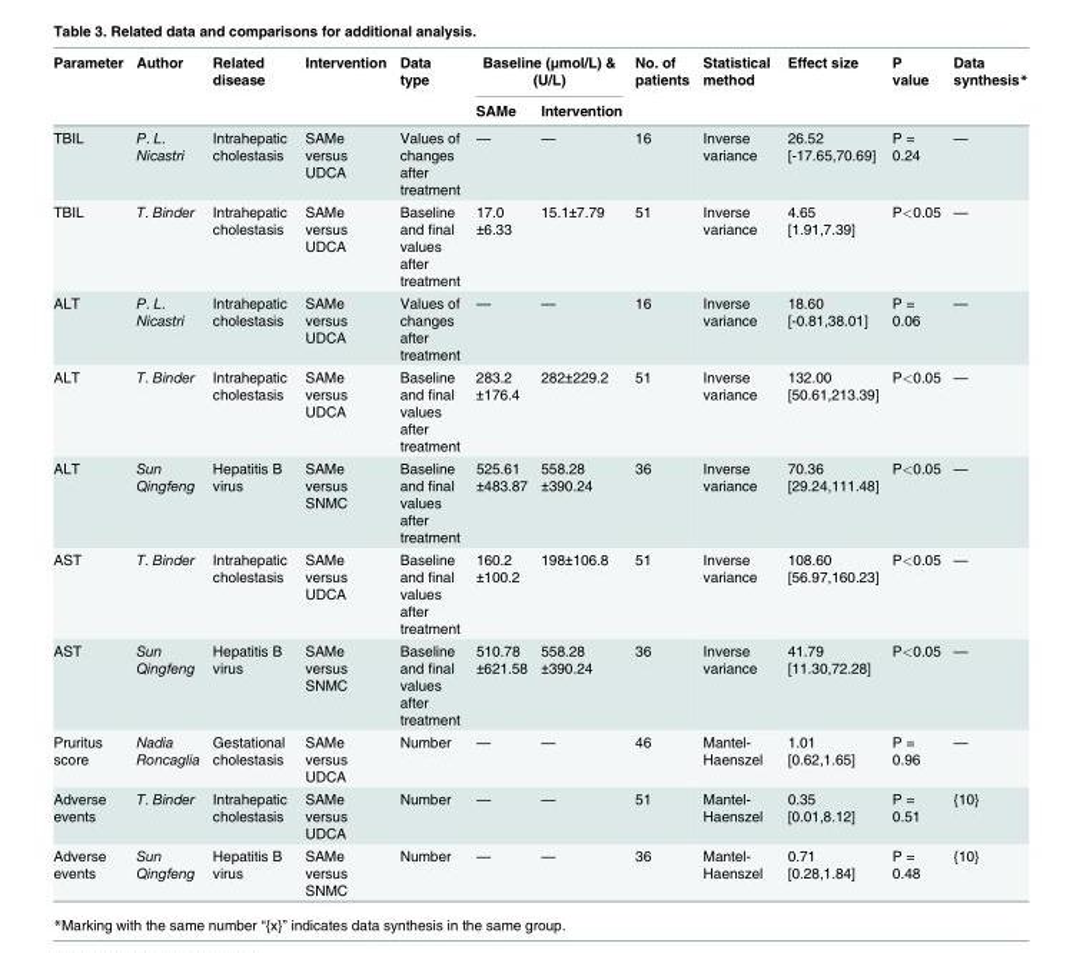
<table><thead><tr><td rowspan="2">Parameter</td><td rowspan="2">Author</td><td rowspan="2">Related disease</td><td rowspan="2">Intervention</td><td rowspan="2">Data type</td><td colspan="2">Baseline (μmol/L) &amp; (U/L)</td><td rowspan="2">No. of patients</td><td rowspan="2">Statistical method</td><td rowspan="2">Effect size</td><td rowspan="2">P value</td><td rowspan="2">Data synthesis*</td></tr><tr><td>SAMe</td><td>Intervention</td></tr></thead><tbody><tr><td>TBIL</td><td>P. L. Nicastri</td><td>Intrahepatic cholestasis</td><td>SAMe versus UDCA</td><td>Values of changes after treatment</td><td>—</td><td>—</td><td>16</td><td>Inverse variance</td><td>26.52 [-17.65,70.69]</td><td>P = 0.24</td><td>—</td></tr><tr><td>TBIL</td><td>T. Binder</td><td>Intrahepatic cholestasis</td><td>SAMe versus UDCA</td><td>Baseline and final values after treatment</td><td>17.0 ±6.33</td><td>15.1±7.79</td><td>51</td><td>Inverse variance</td><td>4.65 [1.91,7.39]</td><td>P&lt;0.05</td><td>—</td></tr><tr><td>ALT</td><td>P. L. Nicastri</td><td>Intrahepatic cholestasis</td><td>SAMe versus UDCA</td><td>Values of changes after treatment</td><td>—</td><td>—</td><td>16</td><td>Inverse variance</td><td>18.60 [-0.81,38.01]</td><td>P = 0.06</td><td>—</td></tr><tr><td>ALT</td><td>T. Binder</td><td>Intrahepatic cholestasis</td><td>SAMe versus UDCA</td><td>Baseline and final values after treatment</td><td>283.2 ±176.4</td><td>282±229.2</td><td>51</td><td>Inverse variance</td><td>132.00 [50.61,213.39]</td><td>P&lt;0.05</td><td>—</td></tr><tr><td>ALT</td><td>Sun Qingfeng</td><td>Hepatitis B virus</td><td>SAMe versus SNMC</td><td>Baseline and final values after treatment</td><td>525.61 ±483.87</td><td>558.28 ±390.24</td><td>36</td><td>Inverse variance</td><td>70.36 [29.24,111.48]</td><td>P&lt;0.05</td><td>—</td></tr><tr><td>AST</td><td>T. Binder</td><td>Intrahepatic cholestasis</td><td>SAMe versus UDCA</td><td>Baseline and final values after treatment</td><td>160.2 ±100.2</td><td>198±106.8</td><td>51</td><td>Inverse variance</td><td>108.60 [56.97,160.23]</td><td>P&lt;0.05</td><td>—</td></tr><tr><td>AST</td><td>Sun Qingfeng</td><td>Hepatitis B virus</td><td>SAMe versus SNMC</td><td>Baseline and final values after treatment</td><td>510.78 ±621.58</td><td>558.28 ±390.24</td><td>36</td><td>Inverse variance</td><td>41.79 [11.30,72.28]</td><td>P&lt;0.05</td><td>—</td></tr><tr><td>Pruritus score</td><td>Nadia Roncaglia</td><td>Gestational cholestasis</td><td>SAMe versus UDCA</td><td>Number</td><td>—</td><td>—</td><td>46</td><td>Mantel- Haenszel</td><td>1.01 [0.62,1.65]</td><td>P = 0.96</td><td>—</td></tr><tr><td>Adverse events</td><td>T. Binder</td><td>Intrahepatic cholestasis</td><td>SAMe versus UDCA</td><td>Number</td><td>—</td><td>—</td><td>51</td><td>Mantel- Haenszel</td><td>0.35 [0.01,8.12]</td><td>P = 0.51</td><td>{10}</td></tr><tr><td>Adverse events</td><td>Sun Qingfeng</td><td>Hepatitis B virus</td><td>SAMe versus SNMC</td><td>Number</td><td>—</td><td>—</td><td>36</td><td>Mantel- Haenszel</td><td>0.71 [0.28,1.84]</td><td>P = 0.48</td><td>{10}</td></tr></tbody></table>